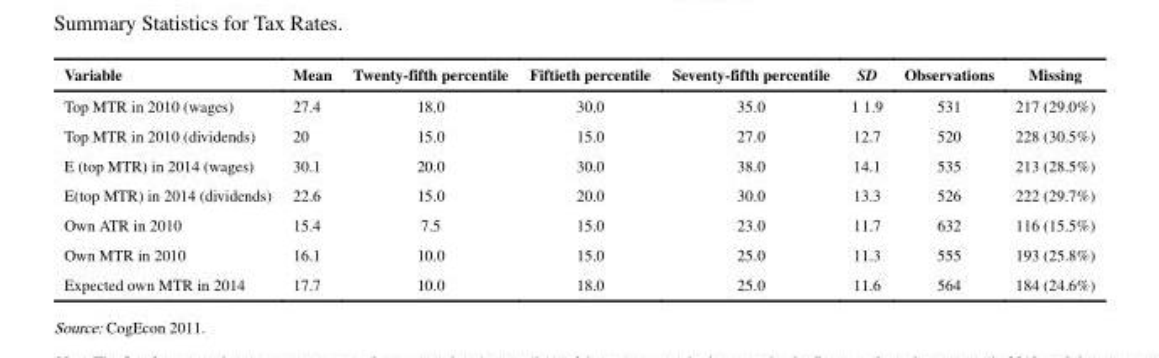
<table><thead><tr><td>Variable</td><td>Mean</td><td>Twenty-fifth percentile</td><td>Fiftieth percentile</td><td>Seventy-fifth percentile</td><td>SD</td><td>Observations</td><td>Missing</td></tr></thead><tbody><tr><td>Top MTR in 2010 (wages)</td><td>27.4</td><td>18.0</td><td>30.0</td><td>35.0</td><td>1 1.9</td><td>531</td><td>217 (29.0%)</td></tr><tr><td>Top MTR in 2010 (dividends)</td><td>20</td><td>15.0</td><td>15.0</td><td>27.0</td><td>12.7</td><td>520</td><td>228 (30.5%)</td></tr><tr><td>E (top MTR) in 2014 (wages)</td><td>30.1</td><td>20.0</td><td>30.0</td><td>38.0</td><td>14.1</td><td>535</td><td>213 (28.5%)</td></tr><tr><td>E(top MTR) in 2014 (dividends)</td><td>22.6</td><td>15.0</td><td>20.0</td><td>30.0</td><td>13.3</td><td>526</td><td>222 (29.7%)</td></tr><tr><td>Own ATR in 2010</td><td>15.4</td><td>7.5</td><td>15.0</td><td>23.0</td><td>11.7</td><td>632</td><td>116 (15.5%)</td></tr><tr><td>Own MTR in 2010</td><td>16.1</td><td>10.0</td><td>15.0</td><td>25.0</td><td>11.3</td><td>555</td><td>193 (25.8%)</td></tr><tr><td>Expected own MTR in 2014</td><td>17.7</td><td>10.0</td><td>18.0</td><td>25.0</td><td>11.6</td><td>564</td><td>184 (24.6%)</td></tr></tbody></table>